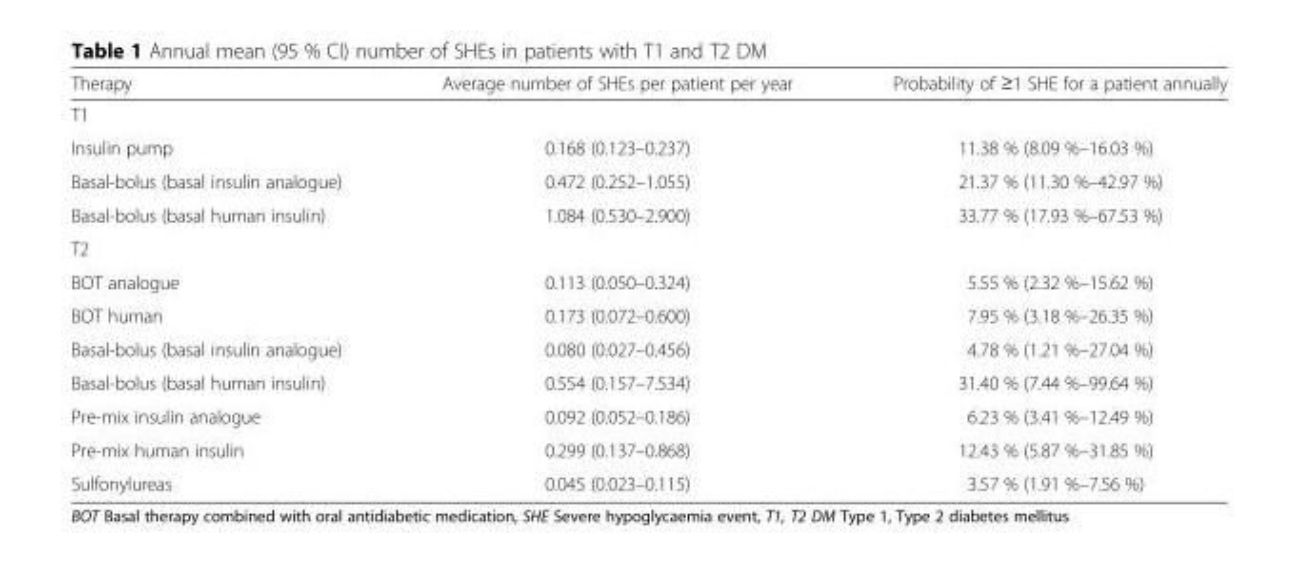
<table><thead><tr><td>Therapy</td><td>Average number of SHEs per patient per year</td><td>Probability of ≥1 SHE for a patient annually</td></tr></thead><tbody><tr><td colspan="3">T1</td></tr><tr><td>Insulin pump</td><td>0.168 (0.123–0.237)</td><td>11.38 % (8.09 %–16.03 %)</td></tr><tr><td>Basal-bolus (basal insulin analogue)</td><td>0.472 (0.252–1.055)</td><td>21.37 % (11.30 %–42.97 %)</td></tr><tr><td>Basal-bolus (basal human insulin)</td><td>1.084 (0.530–2.900)</td><td>33.77 % (17.93 %–67.53 %)</td></tr><tr><td colspan="3">T2</td></tr><tr><td>BOT analogue</td><td>0.113 (0.050–0.324)</td><td>5.55 % (2.32 %–15.62 %)</td></tr><tr><td>BOT human</td><td>0.173 (0.072–0.600)</td><td>7.95 % (3.18 %–26.35 %)</td></tr><tr><td>Basal-bolus (basal insulin analogue)</td><td>0.080 (0.027–0.456)</td><td>4.78 % (1.21 %–27.04 %)</td></tr><tr><td>Basal-bolus (basal human insulin)</td><td>0.554 (0.157–7.534)</td><td>31.40 % (7.44 %–99.64 %)</td></tr><tr><td>Pre-mix insulin analogue</td><td>0.092 (0.052–0.186)</td><td>6.23 % (3.41 %–12.49 %)</td></tr><tr><td>Pre-mix human insulin</td><td>0.299 (0.137–0.868)</td><td>12.43 % (5.87 %–31.85 %)</td></tr><tr><td>Sulfonylureas</td><td>0.045 (0.023–0.115)</td><td>3.57 % (1.91 %–7.56 %)</td></tr></tbody></table>